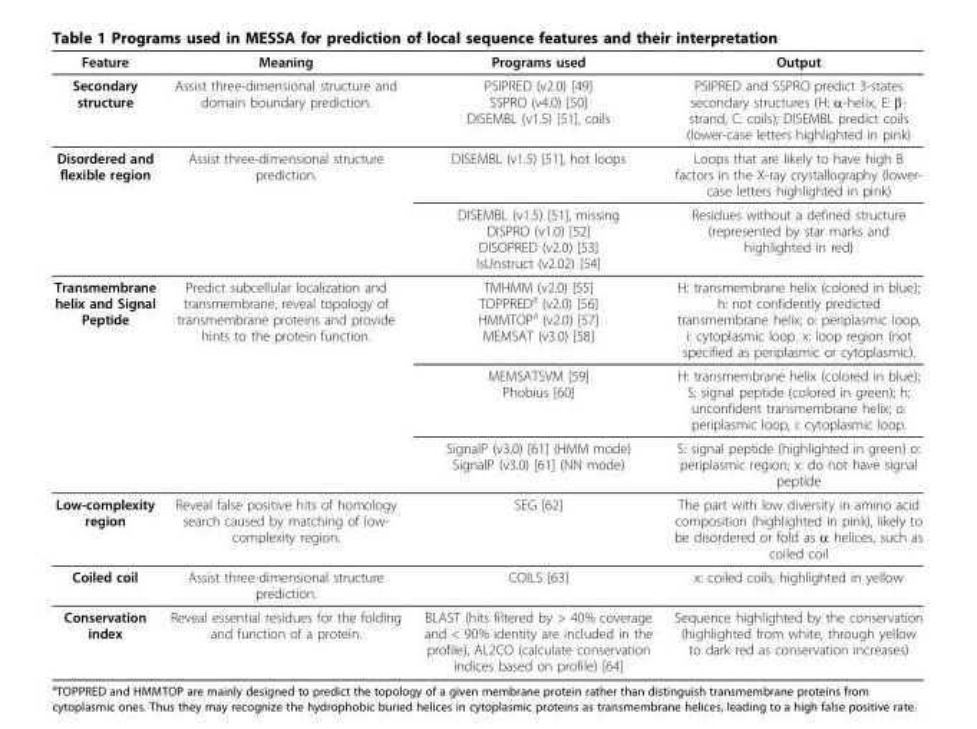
<table><thead><tr><td>Feature</td><td>Meaning</td><td>Programs used</td><td>Output</td></tr></thead><tbody><tr><td>Secondary structure</td><td>Assist three-dimensional structure and domain boundary prediction.</td><td>PSIPRED (v2.0) [49] SSPRO (v4.0) [50] DISEMBL (v1.5) [51], coils</td><td>PSIPRED and SSPRO predict 3-states secondary structures (H: α-helix, E: β- strand, C: coils); DISEMBL predict coils (lower-case letters highlighted in pink)</td></tr><tr><td rowspan="2">Disordered and flexible region</td><td>Assist three-dimensional structure prediction.</td><td>DISEMBL (v1.5) [51], hot loops</td><td>Loops that are likely to have high B factors in the X-ray crystallography (lower- case letters highlighted in pink)</td></tr><tr><td></td><td>DISEMBL (v1.5) [51], missing DISPRO (v1.0) [52] DISOPRED (v2.0) [53] IsUnstruct (v2.02) [54]</td><td>Residues without a defined structure (represented by star marks and highlighted in red)</td></tr><tr><td rowspan="3">Transmembrane helix and Signal Peptide</td><td>Predict subcellular localization and transmembrane, reveal topology of transmembrane proteins and provide hints to the protein function.</td><td>TMHMM (v2.0) [55] TOPPRED<sup>a</sup> (v2.0) [56] HMMTOP<sup>a</sup> (v2.0) [57] MEMSAT (v3.0) [58]</td><td>H: transmembrane helix (colored in blue); h: not confidently predicted transmembrane helix; o: periplasmic loop, i: cytoplasmic loop. x: loop region (not specified as periplasmic or cytoplasmic).</td></tr><tr><td></td><td>MEMSATSVM [59] Phobius [60]</td><td>H: transmembrane helix (colored in blue); S: signal peptide (colored in green); h: unconfident transmembrane helix; o: periplasmic loop, i: cytoplasmic loop.</td></tr><tr><td></td><td>SignalP (v3.0) [61] (HMM mode) SignalP (v3.0) [61] (NN mode)</td><td>S: signal peptide (highlighted in green) o: periplasmic region; x: do not have signal peptide</td></tr><tr><td>Low-complexity region</td><td>Reveal false positive hits of homology search caused by matching of low- complexity region.</td><td>SEG [62]</td><td>The part with low diversity in amino acid composition (highlighted in pink), likely to be disordered or fold as α helices, such as coiled coil</td></tr><tr><td>Coiled coil</td><td>Assist three-dimensional structure prediction.</td><td>COILS [63]</td><td>x: coiled coils, highlighted in yellow</td></tr><tr><td>Conservation index</td><td>Reveal essential residues for the folding and function of a protein.</td><td>BLAST (hits filtered by &gt; 40% coverage and &lt; 90% identity are included in the profile), AL2CO (calculate conservation indices based on profile) [64]</td><td>Sequence highlighted by the conservation (highlighted from white, through yellow to dark red as conservation increases)</td></tr></tbody></table>